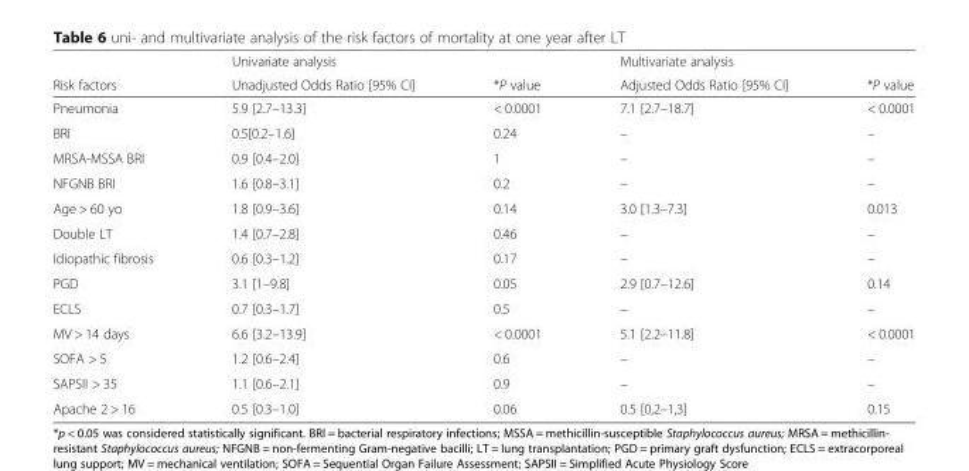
<table><thead><tr><td rowspan="2">Risk factors</td><td rowspan="2">Univariate analysis Unadjusted Odds Ratio [95% CI]</td><td rowspan="2">*P value</td><td rowspan="2">Multivariate analysis Adjusted Odds Ratio [95% CI]</td><td rowspan="2">*P value</td></tr><tr></tr></thead><tbody><tr><td>Pneumonia</td><td>5.9 [2.7–13.3]</td><td>&lt; 0.0001</td><td>7.1 [2.7–18.7]</td><td>&lt; 0.0001</td></tr><tr><td>BRI</td><td>0.5[0.2–1.6]</td><td>0.24</td><td>–</td><td>–</td></tr><tr><td>MRSA-MSSA BRI</td><td>0.9 [0.4–2.0]</td><td>1</td><td>–</td><td>–</td></tr><tr><td>NFGNB BRI</td><td>1.6 [0.8–3.1]</td><td>0.2</td><td>–</td><td>–</td></tr><tr><td>Age &gt; 60 yo</td><td>1.8 [0.9–3.6]</td><td>0.14</td><td>3.0 [1.3–7.3]</td><td>0.013</td></tr><tr><td>Double LT</td><td>1.4 [0.7–2.8]</td><td>0.46</td><td>–</td><td>–</td></tr><tr><td>Idiopathic fibrosis</td><td>0.6 [0.3–1.2]</td><td>0.17</td><td>–</td><td>–</td></tr><tr><td>PGD</td><td>3.1 [1–9.8]</td><td>0.05</td><td>2.9 [0.7–12.6]</td><td>0.14</td></tr><tr><td>ECLS</td><td>0.7 [0.3–1.7]</td><td>0.5</td><td>–</td><td>–</td></tr><tr><td>MV &gt; 14 days</td><td>6.6 [3.2–13.9]</td><td>&lt; 0.0001</td><td>5.1 [2.2–11.8]</td><td>&lt; 0.0001</td></tr><tr><td>SOFA &gt; 5</td><td>1.2 [0.6–2.4]</td><td>0.6</td><td>–</td><td>–</td></tr><tr><td>SAPSII &gt; 35</td><td>1.1 [0.6–2.1]</td><td>0.9</td><td>–</td><td>–</td></tr><tr><td>Apache 2 &gt; 16</td><td>0.5 [0.3–1.0]</td><td>0.06</td><td>0.5 [0,2–1,3]</td><td>0.15</td></tr></tbody></table>